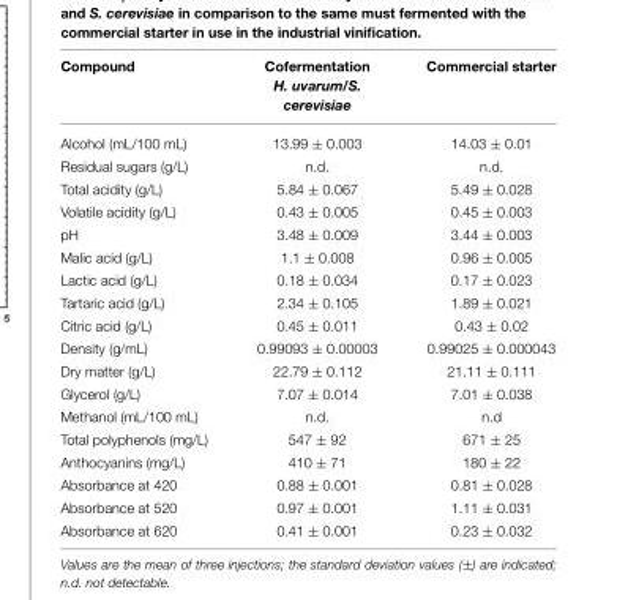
<table><thead><tr><td>Compound</td><td>Cofermentation H. uvarum/S. cerevisiae</td><td>Commercial starter</td></tr></thead><tbody><tr><td>Alcohol (mL/100 mL)</td><td>13.99 ± 0.003</td><td>14.03 ± 0.01</td></tr><tr><td>Residual sugars (g/L)</td><td>n.d.</td><td>n.d.</td></tr><tr><td>Total acidity (g/L)</td><td>5.84 ± 0.067</td><td>5.49 ± 0.028</td></tr><tr><td>Volatile acidity (g/L)</td><td>0.43 ± 0.005</td><td>0.45 ± 0.003</td></tr><tr><td>pH</td><td>3.48 ± 0.009</td><td>3.44 ± 0.003</td></tr><tr><td>Malic acid (g/L)</td><td>1.1 ± 0.008</td><td>0.96 ± 0.005</td></tr><tr><td>Lactic acid (g/L)</td><td>0.18 ± 0.034</td><td>0.17 ± 0.023</td></tr><tr><td>Tartaric acid (g/L)</td><td>2.34 ± 0.105</td><td>1.89 ± 0.021</td></tr><tr><td>Citric acid (g/L)</td><td>0.45 ± 0.011</td><td>0.43 ± 0.02</td></tr><tr><td>Density (g/mL)</td><td>0.99093 ± 0.00003</td><td>0.99025 ± 0.000043</td></tr><tr><td>Dry matter (g/L)</td><td>22.79 ± 0.112</td><td>21.11 ± 0.111</td></tr><tr><td>Glycerol (g/L)</td><td>7.07 ± 0.014</td><td>7.01 ± 0.038</td></tr><tr><td>Methanol (mL/100 mL)</td><td>n.d.</td><td>n.d</td></tr><tr><td>Total polyphenols (mg/L)</td><td>547 ± 92</td><td>671 ± 25</td></tr><tr><td>Anthocyanins (mg/L)</td><td>410 ± 71</td><td>180 ± 22</td></tr><tr><td>Absorbance at 420</td><td>0.88 ± 0.001</td><td>0.81 ± 0.028</td></tr><tr><td>Absorbance at 520</td><td>0.97 ± 0.001</td><td>1.11 ± 0.031</td></tr><tr><td>Absorbance at 620</td><td>0.41 ± 0.001</td><td>0.23 ± 0.032</td></tr></tbody></table>